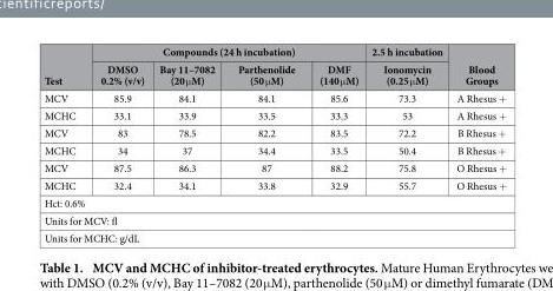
<table><thead><tr><td rowspan="2">Test</td><td colspan="4">Compounds (24 h incubation)</td><td rowspan="2">2.5 h incubation Ionomycin (0.25 μ M)</td><td rowspan="2">Blood Groups</td></tr><tr><td>DMSO 0.2% (v/v)</td><td>Bay 11–7082 (20 μ M)</td><td>Parthenolide (50 μ M)</td><td>DMF (140 μ M)</td></tr></thead><tbody><tr><td>MCV</td><td>85.9</td><td>84.1</td><td>84.1</td><td>85.6</td><td>73.3</td><td>A Rhesus +</td></tr><tr><td>MCHC</td><td>33.1</td><td>33.9</td><td>33.5</td><td>33.3</td><td>53</td><td>A Rhesus +</td></tr><tr><td>MCV</td><td>83</td><td>78.5</td><td>82.2</td><td>83.5</td><td>72.2</td><td>B Rhesus +</td></tr><tr><td>MCHC</td><td>34</td><td>37</td><td>34.4</td><td>33.5</td><td>50.4</td><td>B Rhesus +</td></tr><tr><td>MCV</td><td>87.5</td><td>86.3</td><td>87</td><td>88.2</td><td>75.8</td><td>O Rhesus +</td></tr><tr><td>MCHC</td><td>32.4</td><td>34.1</td><td>33.8</td><td>32.9</td><td>55.7</td><td>O Rhesus +</td></tr><tr><td colspan="7">Hct: 0.6%</td></tr><tr><td colspan="7">Units for MCV: fl</td></tr><tr><td colspan="7">Units for MCHC: g/dL</td></tr></tbody></table>